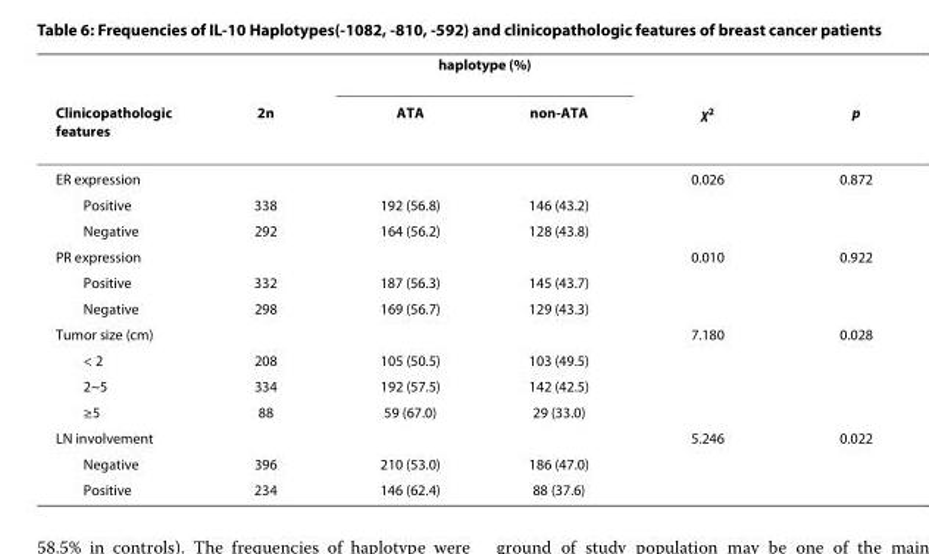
<table><thead><tr><td rowspan="2">Clinicopathologic features</td><td rowspan="2">2n</td><td colspan="2">haplotype (%)</td><td rowspan="2">χ<sup>2</sup></td><td rowspan="2">p</td></tr><tr><td>ATA</td><td>non-ATA</td></tr></thead><tbody><tr><td>ER expression</td><td></td><td></td><td></td><td>0.026</td><td>0.872</td></tr><tr><td>Positive</td><td>338</td><td>192 (56.8)</td><td>146 (43.2)</td><td></td><td></td></tr><tr><td>Negative</td><td>292</td><td>164 (56.2)</td><td>128 (43.8)</td><td></td><td></td></tr><tr><td>PR expression</td><td></td><td></td><td></td><td>0.010</td><td>0.922</td></tr><tr><td>Positive</td><td>332</td><td>187 (56.3)</td><td>145 (43.7)</td><td></td><td></td></tr><tr><td>Negative</td><td>298</td><td>169 (56.7)</td><td>129 (43.3)</td><td></td><td></td></tr><tr><td>Tumor size (cm)</td><td></td><td></td><td></td><td>7.180</td><td>0.028</td></tr><tr><td>&lt; 2</td><td>208</td><td>105 (50.5)</td><td>103 (49.5)</td><td></td><td></td></tr><tr><td>2~5</td><td>334</td><td>192 (57.5)</td><td>142 (42.5)</td><td></td><td></td></tr><tr><td>≥5</td><td>88</td><td>59 (67.0)</td><td>29 (33.0)</td><td></td><td></td></tr><tr><td>LN involvement</td><td></td><td></td><td></td><td>5.246</td><td>0.022</td></tr><tr><td>Negative</td><td>396</td><td>210 (53.0)</td><td>186 (47.0)</td><td></td><td></td></tr><tr><td>Positive</td><td>234</td><td>146 (62.4)</td><td>88 (37.6)</td><td></td><td></td></tr></tbody></table>